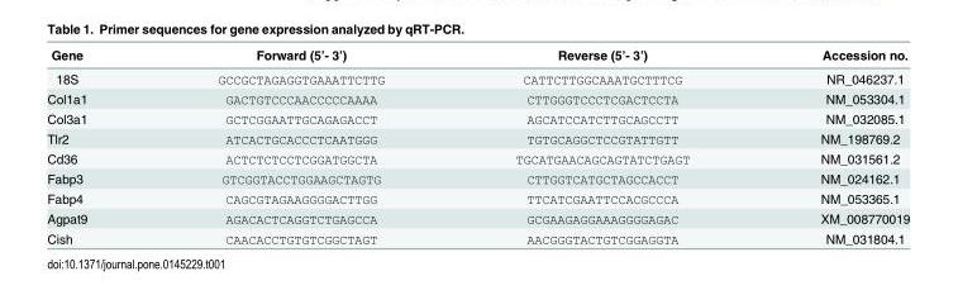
<table><thead><tr><td>Gene</td><td>Forward (5’- 3’)</td><td>Reverse (5’- 3’)</td><td>Accession no.</td></tr></thead><tbody><tr><td>18S</td><td>GCCGCTAGAGGTGAAATTCTTG</td><td>CATTCTTGGCAAATGCTTTCG</td><td>NR_046237.1</td></tr><tr><td>Col1a1</td><td>GACTGTCCCAACCCCCAAAA</td><td>CTTGGGTCCCTCGACTCCTA</td><td>NM_053304.1</td></tr><tr><td>Col3a1</td><td>GCTCGGAATTGCAGAGACCT</td><td>AGCATCCATCTTGCAGCCTT</td><td>NM_032085.1</td></tr><tr><td>Tlr2</td><td>ATCACTGCACCCTCAATGGG</td><td>TGTGCAGGCTCCGTATTGTT</td><td>NM_198769.2</td></tr><tr><td>Cd36</td><td>ACTCTCTCCTCGGATGGCTA</td><td>TGCATGAACAGCAGTATCTGAGT</td><td>NM_031561.2</td></tr><tr><td>Fabp3</td><td>GTCGGTACCTGGAAGCTAGTG</td><td>CTTGGTCATGCTAGCCACCT</td><td>NM_024162.1</td></tr><tr><td>Fabp4</td><td>CAGCGTAGAAGGGGACTTGG</td><td>TTCATCGAATTCCACGCCCA</td><td>NM_053365.1</td></tr><tr><td>Agpat9</td><td>AGACACTCAGGTCTGAGCCA</td><td>GCGAAGAGGAAAGGGGAGAC</td><td>XM_008770019</td></tr><tr><td>Cish</td><td>CAACACCTGTGTCGGCTAGT</td><td>AACGGGTACTGTCGGAGGTA</td><td>NM_031804.1</td></tr></tbody></table>